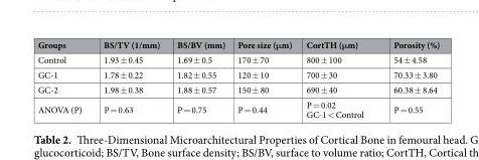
<table><thead><tr><td>Groups</td><td>BS/TV (1/mm)</td><td>BS/BV (mm)</td><td>Pore size (μm)</td><td>CortTH (μm)</td><td>Porosity (%)</td></tr></thead><tbody><tr><td>Control</td><td>1.93 ± 0.45</td><td>1.69 ± 0.5</td><td>170 ± 70</td><td>800 ± 100</td><td>54 ± 4.58</td></tr><tr><td>GC-1</td><td>1.78 ± 0.22</td><td>1.82 ± 0.55</td><td>120 ± 10</td><td>700 ± 30</td><td>70.33 ± 3.80</td></tr><tr><td>GC-2</td><td>1.98 ± 0.38</td><td>1.88 ± 0.57</td><td>150 ± 80</td><td>690 ± 40</td><td>60.38 ± 8.64</td></tr><tr><td>ANOVA (P)</td><td>P = 0.63</td><td>P = 0.75</td><td>P = 0.44</td><td>P = 0.02 GC-1 &lt; Control</td><td>P = 0.55</td></tr></tbody></table>